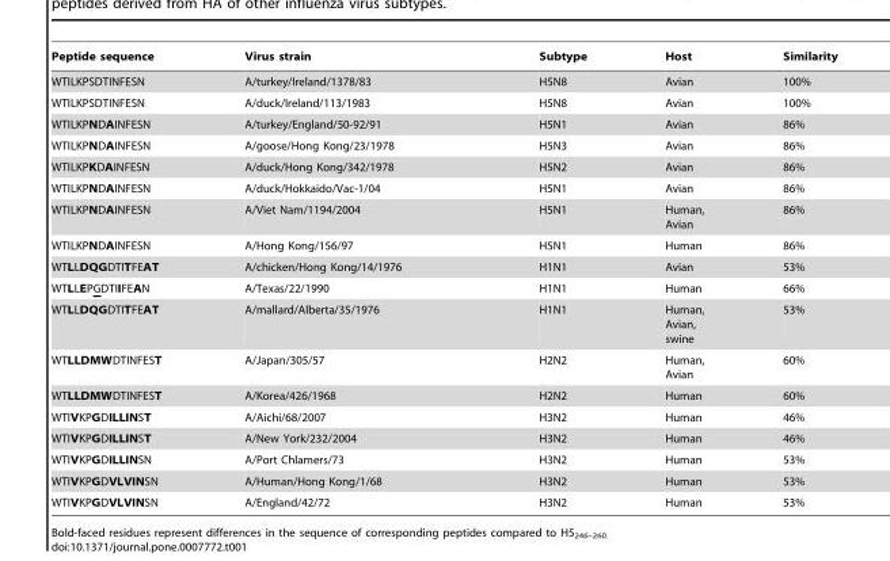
<table><thead><tr><td>Peptide sequence</td><td>Virus strain</td><td>Subtype</td><td>Host</td><td>Similarity</td></tr></thead><tbody><tr><td>WTILKPSDTINFESN</td><td>A/turkey/Ireland/1378/83</td><td>H5N8</td><td>Avian</td><td>100%</td></tr><tr><td>WTILKPSDTINFESN</td><td>A/duck/Ireland/113/1983</td><td>H5N8</td><td>Avian</td><td>100%</td></tr><tr><td>WTILKPNDAINFESN</td><td>A/turkey/England/50-92/91</td><td>H5N1</td><td>Avian</td><td>86%</td></tr><tr><td>WTILKPNDAINFESN</td><td>A/goose/Hong Kong/23/1978</td><td>H5N3</td><td>Avian</td><td>86%</td></tr><tr><td>WTILKPKDAINFESN</td><td>A/duck/Hong Kong/342/1978</td><td>H5N2</td><td>Avian</td><td>86%</td></tr><tr><td>WTILKPNDAINFESN</td><td>A/duck/Hokkaido/Vac-1/04</td><td>H5N1</td><td>Avian</td><td>86%</td></tr><tr><td>WTILKPNDAINFESN</td><td>A/Viet Nam/1194/2004</td><td>H5N1</td><td>Human, Avian</td><td>86%</td></tr><tr><td>WTILKPNDAINFESN</td><td>A/Hong Kong/156/97</td><td>H5N1</td><td>Human</td><td>86%</td></tr><tr><td>WTLLDQGDTITFEAT</td><td>A/chicken/Hong Kong/14/1976</td><td>H1N1</td><td>Avian</td><td>53%</td></tr><tr><td>WTLLEPGDTIIFEAN</td><td>A/Texas/22/1990</td><td>H1N1</td><td>Human</td><td>66%</td></tr><tr><td>WTLLDQGDTITFEAT</td><td>A/mallard/Alberta/35/1976</td><td>H1N1</td><td>Human, Avian, swine</td><td>53%</td></tr><tr><td>WTLLDMWDTINFEST</td><td>A/Japan/305/57</td><td>H2N2</td><td>Human, Avian</td><td>60%</td></tr><tr><td>WTLLDMWDTINFEST</td><td>A/Korea/426/1968</td><td>H2N2</td><td>Human</td><td>60%</td></tr><tr><td>WTIVKPGDILLINST</td><td>A/Aichi/68/2007</td><td>H3N2</td><td>Human</td><td>46%</td></tr><tr><td>WTIVKPGDILLINST</td><td>A/New York/232/2004</td><td>H3N2</td><td>Human</td><td>46%</td></tr><tr><td>WTIVKPGDILLINSN</td><td>A/Port Chlamers/73</td><td>H3N2</td><td>Human</td><td>53%</td></tr><tr><td>WTIVKPGDVLVINSN</td><td>A/Human/Hong Kong/1/68</td><td>H3N2</td><td>Human</td><td>53%</td></tr><tr><td>WTIVKPGDVLVINSN</td><td>A/England/42/72</td><td>H3N2</td><td>Human</td><td>53%</td></tr></tbody></table>